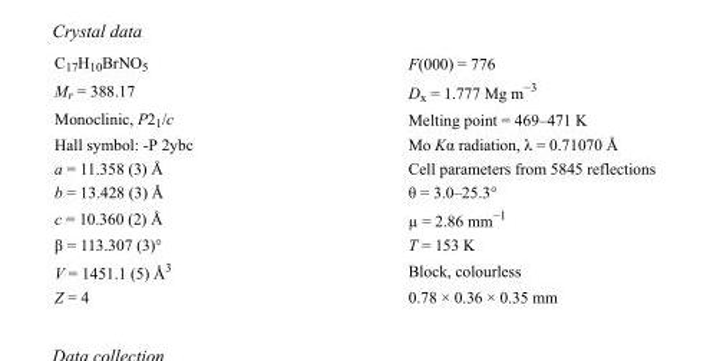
<table><tbody><tr><td>C<sub>17</sub>H<sub>10</sub>BrNO<sub>5</sub></td><td>F(000) = 776</td></tr><tr><td>M<sub>r</sub> = 388.17</td><td>D<sub>x</sub> = 1.777 Mg m<sup>−3</sup></td></tr><tr><td>Monoclinic, P2<sub>1</sub>/c</td><td>Melting point = 469–471 K</td></tr><tr><td>Hall symbol: -P 2ybc</td><td>Mo Kα radiation, λ = 0.71070 Å</td></tr><tr><td>a = 11.358 (3) Å</td><td>Cell parameters from 5845 reflections</td></tr><tr><td>b = 13.428 (3) Å</td><td>θ = 3.0–25.3°</td></tr><tr><td>c = 10.360 (2) Å</td><td>µ = 2.86 mm<sup>−1</sup></td></tr><tr><td>β = 113.307 (3)°</td><td>T = 153 K</td></tr><tr><td>V = 1451.1 (5) Å<sup>3</sup></td><td>Block, colourless</td></tr><tr><td>Z = 4</td><td>0.78 × 0.36 × 0.35 mm</td></tr></tbody></table>